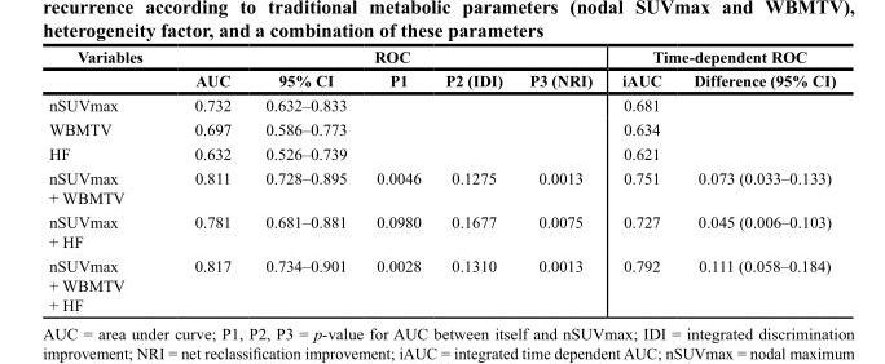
<table><thead><tr><td rowspan="2">Variables</td><td colspan="5">ROC</td><td colspan="2">Time-dependent ROC</td></tr><tr><td>AUC</td><td>95% CI</td><td>P1</td><td>P2 (IDI)</td><td>P3 (NRI)</td><td>iAUC</td><td>Difference (95% CI)</td></tr></thead><tbody><tr><td>nSUVmax</td><td>0.732</td><td>0.632–0.833</td><td></td><td></td><td></td><td>0.681</td><td></td></tr><tr><td>WBMTV</td><td>0.697</td><td>0.586–0.773</td><td></td><td></td><td></td><td>0.634</td><td></td></tr><tr><td>HF</td><td>0.632</td><td>0.526–0.739</td><td></td><td></td><td></td><td>0.621</td><td></td></tr><tr><td>nSUVmax + WBMTV</td><td>0.811</td><td>0.728–0.895</td><td>0.0046</td><td>0.1275</td><td>0.0013</td><td>0.751</td><td>0.073 (0.033–0.133)</td></tr><tr><td>nSUVmax + HF</td><td>0.781</td><td>0.681–0.881</td><td>0.0980</td><td>0.1677</td><td>0.0075</td><td>0.727</td><td>0.045 (0.006–0.103)</td></tr><tr><td>nSUVmax + WBMTV + HF</td><td>0.817</td><td>0.734–0.901</td><td>0.0028</td><td>0.1310</td><td>0.0013</td><td>0.792</td><td>0.111 (0.058–0.184)</td></tr></tbody></table>